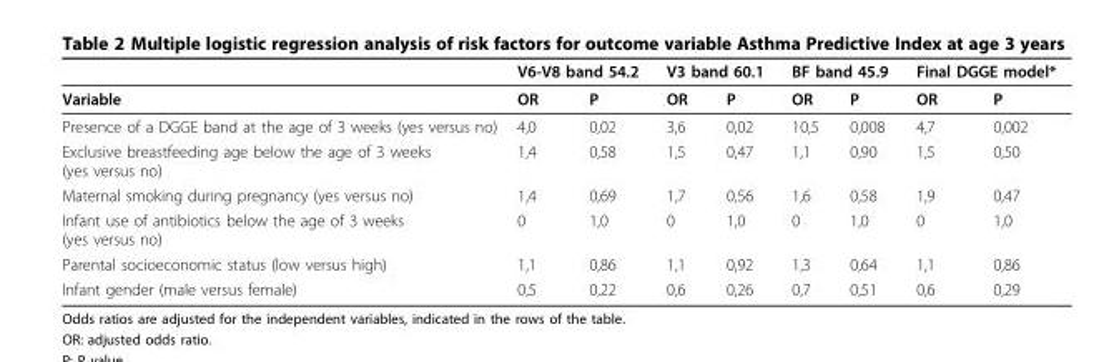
<table><thead><tr><td rowspan="2">Variable</td><td colspan="2">V6-V8 band 54.2</td><td colspan="2">V3 band 60.1</td><td colspan="2">BF band 45.9</td><td colspan="2">Final DGGE model*</td></tr><tr><td>OR</td><td>P</td><td>OR</td><td>P</td><td>OR</td><td>P</td><td>OR</td><td>P</td></tr></thead><tbody><tr><td>Presence of a DGGE band at the age of 3 weeks (yes versus no)</td><td>4,0</td><td>0,02</td><td>3,6</td><td>0,02</td><td>10,5</td><td>0,008</td><td>4,7</td><td>0,002</td></tr><tr><td>Exclusive breastfeeding age below the age of 3 weeks (yes versus no)</td><td>1,4</td><td>0,58</td><td>1,5</td><td>0,47</td><td>1,1</td><td>0,90</td><td>1,5</td><td>0,50</td></tr><tr><td>Maternal smoking during pregnancy (yes versus no)</td><td>1,4</td><td>0,69</td><td>1,7</td><td>0,56</td><td>1,6</td><td>0,58</td><td>1,9</td><td>0,47</td></tr><tr><td>Infant use of antibiotics below the age of 3 weeks (yes versus no)</td><td>0</td><td>1,0</td><td>0</td><td>1,0</td><td>0</td><td>1,0</td><td>0</td><td>1,0</td></tr><tr><td>Parental socioeconomic status (low versus high)</td><td>1,1</td><td>0,86</td><td>1,1</td><td>0,92</td><td>1,3</td><td>0,64</td><td>1,1</td><td>0,86</td></tr><tr><td>Infant gender (male versus female)</td><td>0,5</td><td>0,22</td><td>0,6</td><td>0,26</td><td>0,7</td><td>0,51</td><td>0,6</td><td>0,29</td></tr></tbody></table>